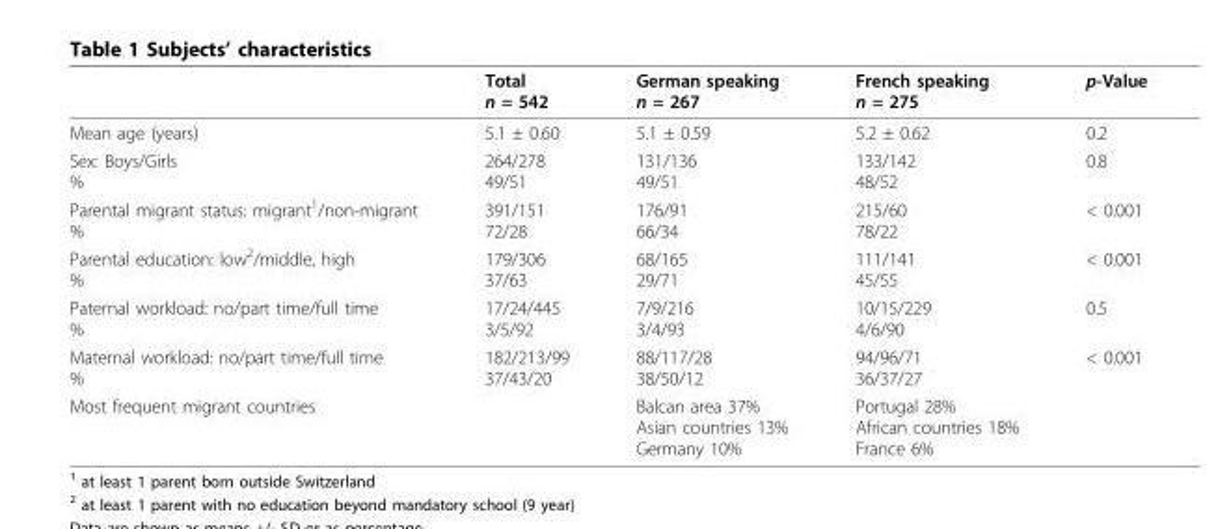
<table><thead><tr><td></td><td>Total n = 542</td><td>German speaking n = 267</td><td>French speaking n = 275</td><td>p-Value</td></tr></thead><tbody><tr><td>Mean age (years)</td><td>5.1 ± 0.60</td><td>5.1 ± 0.59</td><td>5.2 ± 0.62</td><td>0.2</td></tr><tr><td>Sex: Boys/Girls %</td><td>264/278 49/51</td><td>131/136 49/51</td><td>133/142 48/52</td><td>0.8</td></tr><tr><td>Parental migrant status: migrant<sup>1</sup>/non-migrant %</td><td>391/151 72/28</td><td>176/91 66/34</td><td>215/60 78/22</td><td>&lt; 0.001</td></tr><tr><td>Parental education: low<sup>2</sup>/middle, high %</td><td>179/306 37/63</td><td>68/165 29/71</td><td>111/141 45/55</td><td>&lt; 0.001</td></tr><tr><td>Paternal workload: no/part time/full time %</td><td>17/24/445 3/5/92</td><td>7/9/216 3/4/93</td><td>10/15/229 4/6/90</td><td>0.5</td></tr><tr><td>Maternal workload: no/part time/full time %</td><td>182/213/99 37/43/20</td><td>88/117/28 38/50/12</td><td>94/96/71 36/37/27</td><td>&lt; 0.001</td></tr><tr><td>Most frequent migrant countries</td><td></td><td>Balcan area 37% Asian countries 13% Germany 10%</td><td>Portugal 28% African countries 18% France 6%</td><td></td></tr></tbody></table>